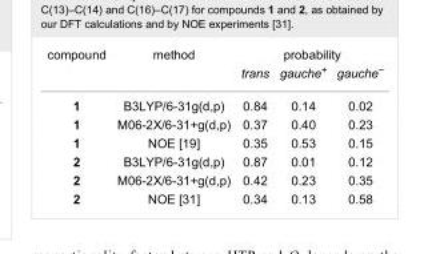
<table><tbody><tr><td>compound</td><td>method</td><td colspan="3">probability</td></tr><tr><td colspan="2"></td><td>trans</td><td>gauche<sup>+</sup></td><td>gauche<sup>−</sup></td></tr><tr><td>1</td><td>B3LYP/6-31g(d,p)</td><td>0.84</td><td>0.14</td><td>0.02</td></tr><tr><td>1</td><td>M06-2X/6-31+g(d,p)</td><td>0.37</td><td>0.40</td><td>0.23</td></tr><tr><td>1</td><td>NOE [19]</td><td>0.35</td><td>0.53</td><td>0.15</td></tr><tr><td>2</td><td>B3LYP/6-31g(d,p)</td><td>0.87</td><td>0.01</td><td>0.12</td></tr><tr><td>2</td><td>M06-2X/6-31+g(d,p)</td><td>0.42</td><td>0.23</td><td>0.35</td></tr><tr><td>2</td><td>NOE [31]</td><td>0.34</td><td>0.13</td><td>0.58</td></tr></tbody></table>